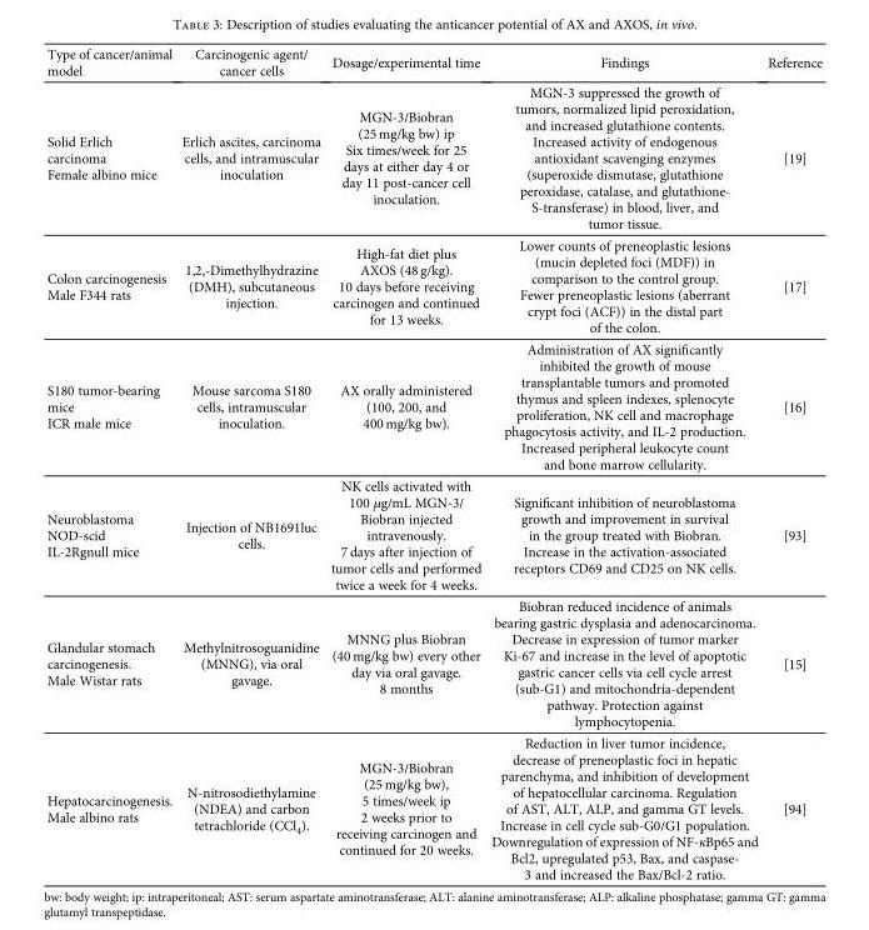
<table><thead><tr><td>Type of cancer/animal model</td><td>Carcinogenic agent/ cancer cells</td><td>Dosage/experimental time</td><td>Findings</td><td>Reference</td></tr></thead><tbody><tr><td>Solid Erlich carcinoma Female albino mice</td><td>Erlich ascites, carcinoma cells, and intramuscular inoculation</td><td>MGN-3/Biobran (25 mg/kg bw) ip Six times/week for 25 days at either day 4 or day 11 post-cancer cell inoculation.</td><td>MGN-3 suppressed the growth of tumors, normalized lipid peroxidation, and increased glutathione contents. Increased activity of endogenous antioxidant scavenging enzymes (superoxide dismutase, glutathione peroxidase, catalase, and glutathione- S-transferase) in blood, liver, and tumor tissue.</td><td>[19]</td></tr><tr><td>Colon carcinogenesis Male F344 rats</td><td>1,2,-Dimethylhydrazine (DMH), subcutaneous injection.</td><td>High-fat diet plus AXOS (48 g/kg). 10 days before receiving carcinogen and continued for 13 weeks.</td><td>Lower counts of preneoplastic lesions (mucin depleted foci (MDF)) in comparison to the control group. Fewer preneoplastic lesions (aberrant crypt foci (ACF)) in the distal part of the colon.</td><td>[17]</td></tr><tr><td>S180 tumor-bearing mice ICR male mice</td><td>Mouse sarcoma S180 cells, intramuscular inoculation.</td><td>AX orally administered (100, 200, and 400 mg/kg bw).</td><td>Administration of AX significantly inhibited the growth of mouse transplantable tumors and promoted thymus and spleen indexes, splenocyte proliferation, NK cell and macrophage phagocytosis activity, and IL-2 production. Increased peripheral leukocyte count and bone marrow cellularity.</td><td>[16]</td></tr><tr><td>Neuroblastoma NOD-scid IL-2Rgnull mice</td><td>Injection of NB1691luc cells.</td><td>NK cells activated with 100 μg/mL MGN-3/ Biobran injected intravenously. 7 days after injection of tumor cells and performed twice a week for 4 weeks.</td><td>Significant inhibition of neuroblastoma growth and improvement in survival in the group treated with Biobran. Increase in the activation-associated receptors CD69 and CD25 on NK cells.</td><td>[93]</td></tr><tr><td>Glandular stomach carcinogenesis. Male Wistar rats</td><td>Methylnitrosoguanidine (MNNG), via oral gavage.</td><td>MNNG plus Biobran (40 mg/kg bw) every other day via oral gavage. 8 months</td><td>Biobran reduced incidence of animals bearing gastric dysplasia and adenocarcinoma. Decrease in expression of tumor marker Ki-67 and increase in the level of apoptotic gastric cancer cells via cell cycle arrest (sub-G1) and mitochondria-dependent pathway. Protection against lymphocytopenia.</td><td>[15]</td></tr><tr><td>Hepatocarcinogenesis. Male albino rats</td><td>N-nitrosodiethylamine (NDEA) and carbon tetrachloride (CCl<sub>4</sub>).</td><td>MGN-3/Biobran (25 mg/kg bw), 5 times/week ip 2 weeks prior to receiving carcinogen and continued for 20 weeks.</td><td>Reduction in liver tumor incidence, decrease of preneoplastic foci in hepatic parenchyma, and inhibition of development of hepatocellular carcinoma. Regulation of AST, ALT, ALP, and gamma GT levels. Increase in cell cycle sub-G0/G1 population. Downregulation of expression of NF-κBp65 and Bcl2, upregulated p53, Bax, and caspase- 3 and increased the Bax/Bcl-2 ratio.</td><td>[94]</td></tr></tbody></table>